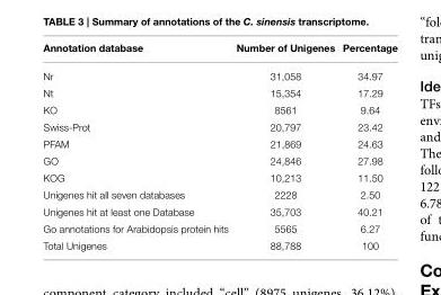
<table><thead><tr><td>Annotation database</td><td>Number of Unigenes</td><td>Percentage</td></tr></thead><tbody><tr><td>Nr</td><td>31,058</td><td>34.97</td></tr><tr><td>Nt</td><td>15,354</td><td>17.29</td></tr><tr><td>KO</td><td>8561</td><td>9.64</td></tr><tr><td>Swiss-Prot</td><td>20,797</td><td>23.42</td></tr><tr><td>PFAM</td><td>21,869</td><td>24.63</td></tr><tr><td>GO</td><td>24,846</td><td>27.98</td></tr><tr><td>KOG</td><td>10,213</td><td>11.50</td></tr><tr><td>Unigenes hit all seven databases</td><td>2228</td><td>2.50</td></tr><tr><td>Unigenes hit at least one Database</td><td>35,703</td><td>40.21</td></tr><tr><td>Go annotations for Arabidopsis protein hits</td><td>5565</td><td>6.27</td></tr><tr><td>Total Unigenes</td><td>88,788</td><td>100</td></tr></tbody></table>